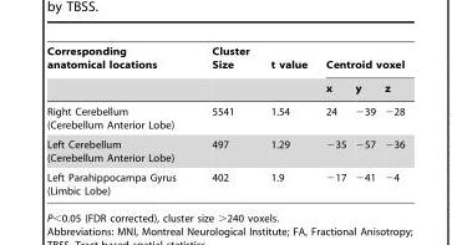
<table><thead><tr><td rowspan="2">Corresponding anatomical locations</td><td rowspan="2">Cluster Size</td><td rowspan="2">t value</td><td colspan="3">Centroid voxel</td></tr><tr><td>x</td><td>y</td><td>z</td></tr></thead><tbody><tr><td>Right Cerebellum (Cerebellum Anterior Lobe)</td><td>5541</td><td>1.54</td><td>24</td><td>−39</td><td>−28</td></tr><tr><td>Left Cerebellum (Cerebellum Anterior Lobe)</td><td>497</td><td>1.29</td><td>−35</td><td>−57</td><td>−36</td></tr><tr><td>Left Parahippocampa Gyrus (Limbic Lobe)</td><td>402</td><td>1.9</td><td>−17</td><td>−41</td><td>−4</td></tr></tbody></table>